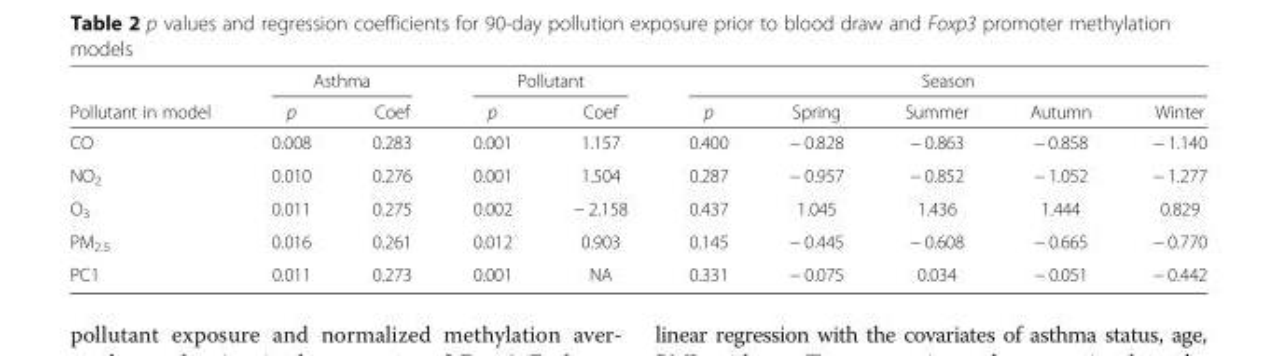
<table><thead><tr><td rowspan="2">Pollutant in model</td><td colspan="2">Asthma</td><td colspan="2">Pollutant</td><td colspan="5">Season</td></tr><tr><td>p</td><td>Coef</td><td>p</td><td>Coef</td><td>p</td><td>Spring</td><td>Summer</td><td>Autumn</td><td>Winter</td></tr></thead><tbody><tr><td>CO</td><td>0.008</td><td>0.283</td><td>0.001</td><td>1.157</td><td>0.400</td><td>− 0.828</td><td>− 0.863</td><td>− 0.858</td><td>− 1.140</td></tr><tr><td>NO<sub>2</sub></td><td>0.010</td><td>0.276</td><td>0.001</td><td>1.504</td><td>0.287</td><td>− 0.957</td><td>− 0.852</td><td>− 1.052</td><td>− 1.277</td></tr><tr><td>O<sub>3</sub></td><td>0.011</td><td>0.275</td><td>0.002</td><td>− 2.158</td><td>0.437</td><td>1.045</td><td>1.436</td><td>1.444</td><td>0.829</td></tr><tr><td>PM<sub>2.5</sub></td><td>0.016</td><td>0.261</td><td>0.012</td><td>0.903</td><td>0.145</td><td>− 0.445</td><td>− 0.608</td><td>− 0.665</td><td>− 0.770</td></tr><tr><td>PC1</td><td>0.011</td><td>0.273</td><td>0.001</td><td>NA</td><td>0.331</td><td>− 0.075</td><td>0.034</td><td>− 0.051</td><td>− 0.442</td></tr></tbody></table>